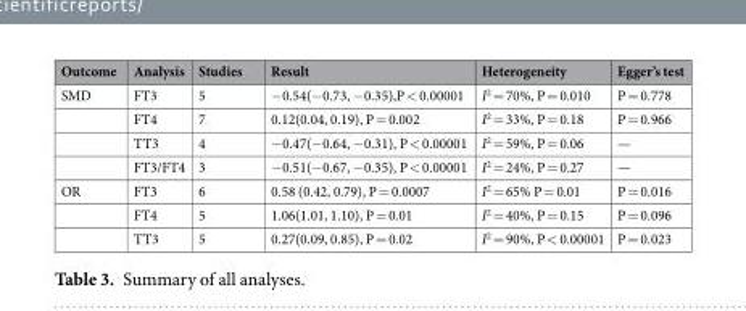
<table><thead><tr><td>Outcome</td><td>Analysis</td><td>Studies</td><td>Result</td><td>Heterogeneity</td><td>Egger’s test</td></tr></thead><tbody><tr><td rowspan="4">SMD</td><td>FT3</td><td>5</td><td>−0.54(−0.73, −0.35),P &lt; 0.00001</td><td>I<sup>2</sup> = 70%, P = 0.010</td><td>P = 0.778</td></tr><tr><td>FT4</td><td>7</td><td>0.12(0.04, 0.19), P = 0.002</td><td>I<sup>2</sup> = 33%, P = 0.18</td><td>P = 0.966</td></tr><tr><td>TT3</td><td>4</td><td>−0.47(−0.64, −0.31), P &lt; 0.00001</td><td>I<sup>2</sup> = 59%, P = 0.06</td><td>—</td></tr><tr><td>FT3/FT4</td><td>3</td><td>−0.51(−0.67, −0.35), P &lt; 0.00001</td><td>I<sup>2</sup> = 24%, P = 0.27</td><td>—</td></tr><tr><td rowspan="3">OR</td><td>FT3</td><td>6</td><td>0.58 (0.42, 0.79), P = 0.0007</td><td>I<sup>2</sup> = 65% P = 0.01</td><td>P = 0.016</td></tr><tr><td>FT4</td><td>5</td><td>1.06(1.01, 1.10), P = 0.01</td><td>I<sup>2</sup> = 40%, P = 0.15</td><td>P = 0.096</td></tr><tr><td>TT3</td><td>5</td><td>0.27(0.09, 0.85), P = 0.02</td><td>I<sup>2</sup> = 90%, P &lt; 0.00001</td><td>P = 0.023</td></tr></tbody></table>